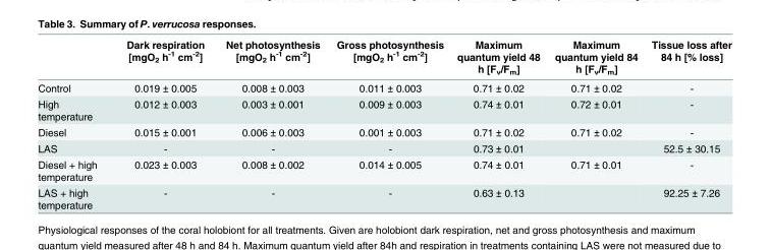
<table><thead><tr><td></td><td>Dark respiration [mgO<sub>2</sub> h<sup>-1</sup> cm<sup>-2</sup>]</td><td>Net photosynthesis [mgO<sub>2</sub> h<sup>-1</sup> cm<sup>-2</sup>]</td><td>Gross photosynthesis [mgO<sub>2</sub> h<sup>-1</sup> cm<sup>-2</sup>]</td><td>Maximum quantum yield 48 h [F<sub>v</sub>/F<sub>m</sub>]</td><td>Maximum quantum yield 84 h [F<sub>v</sub>/F<sub>m</sub>]</td><td>Tissue loss after 84 h [% loss]</td></tr></thead><tbody><tr><td>Control</td><td>0.019 ± 0.005</td><td>0.008 ± 0.003</td><td>0.011 ± 0.003</td><td>0.71 ± 0.02</td><td>0.71 ± 0.02</td><td>-</td></tr><tr><td>High temperature</td><td>0.012 ± 0.003</td><td>0.003 ± 0.001</td><td>0.009 ± 0.003</td><td>0.74 ± 0.01</td><td>0.72 ± 0.01</td><td>-</td></tr><tr><td>Diesel</td><td>0.015 ± 0.001</td><td>0.006 ± 0.003</td><td>0.001 ± 0.003</td><td>0.71 ± 0.02</td><td>0.71 ± 0.02</td><td>-</td></tr><tr><td>LAS</td><td>-</td><td>-</td><td>-</td><td>0.73 ± 0.01</td><td></td><td>52.5 ± 30.15</td></tr><tr><td>Diesel + high temperature</td><td>0.023 ± 0.003</td><td>0.008 ± 0.002</td><td>0.014 ± 0.005</td><td>0.74 ± 0.01</td><td>0.71 ± 0.01</td><td>-</td></tr><tr><td>LAS + high temperature</td><td>-</td><td>-</td><td>-</td><td>0.63 ± 0.13</td><td></td><td>92.25 ± 7.26</td></tr></tbody></table>